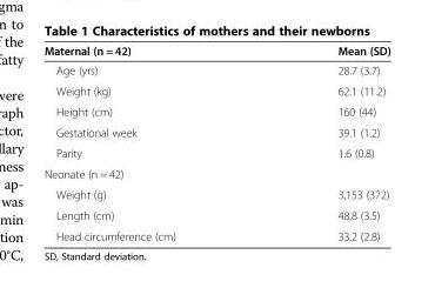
<table><thead><tr><td>Maternal (n = 42)</td><td>Mean (SD)</td></tr></thead><tbody><tr><td>Age (yrs)</td><td>28.7 (3.7)</td></tr><tr><td>Weight (kg)</td><td>62.1 (11.2)</td></tr><tr><td>Height (cm)</td><td>160 (44)</td></tr><tr><td>Gestational week</td><td>39.1 (1.2)</td></tr><tr><td>Parity</td><td>1.6 (0.8)</td></tr><tr><td colspan="2">Neonate (n = 42)</td></tr><tr><td>Weight (g)</td><td>3,153 (372)</td></tr><tr><td>Length (cm)</td><td>48.8 (3.5)</td></tr><tr><td>Head circumference (cm)</td><td>33.2 (2.8)</td></tr></tbody></table>